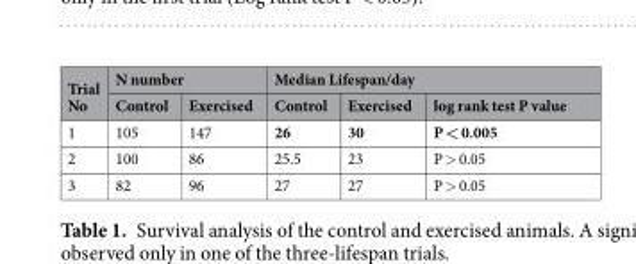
<table><thead><tr><td rowspan="2">Trial No</td><td colspan="2">N number</td><td colspan="3">Median Lifespan/day</td></tr><tr><td>Control</td><td>Exercised</td><td>Control</td><td>Exercised</td><td>log rank test P value</td></tr></thead><tbody><tr><td>1</td><td>105</td><td>147</td><td>26</td><td>30</td><td>P &lt; 0.005</td></tr><tr><td>2</td><td>100</td><td>86</td><td>25.5</td><td>23</td><td>P &gt; 0.05</td></tr><tr><td>3</td><td>82</td><td>96</td><td>27</td><td>27</td><td>P &gt; 0.05</td></tr></tbody></table>